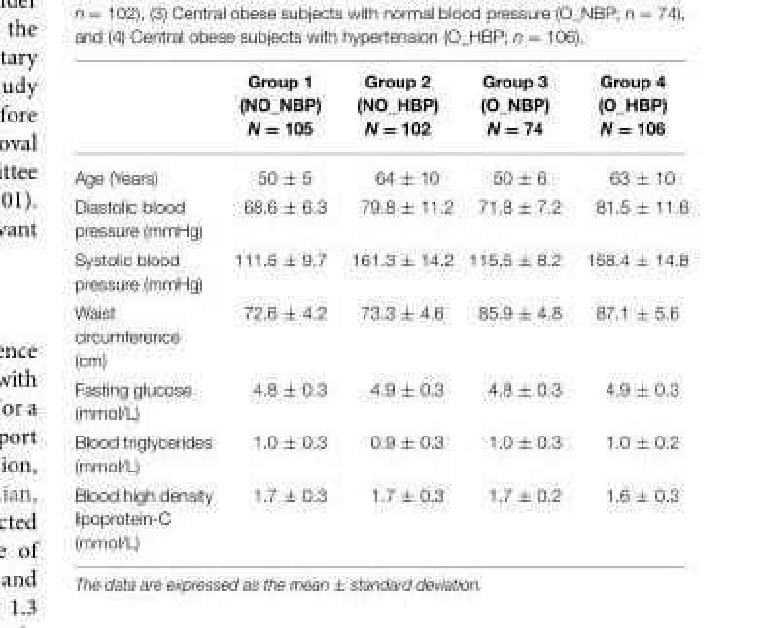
<table><thead><tr><td></td><td>Group 1 (NO_NBP) N = 105</td><td>Group 2 (NO_HBP) N = 102</td><td>Group 3 (O_NBP) N = 74</td><td>Group 4 (O_HBP) N = 106</td></tr></thead><tbody><tr><td>Age (Years)</td><td>50 ± 5</td><td>64 ± 10</td><td>50 ± 6</td><td>63 ± 10</td></tr><tr><td>Diastolic blood pressure (mmHg)</td><td>68.6 ± 6.3</td><td>79.8 ± 11.2</td><td>71.8 ± 7.2</td><td>81.5 ± 11.6</td></tr><tr><td>Systolic blood pressure (mmHg)</td><td>111.5 ± 9.7</td><td>161.3 ± 14.2</td><td>115.5 ± 8.2</td><td>158.4 ± 14.8</td></tr><tr><td>Waist circumference (cm)</td><td>72.6 ± 4.2</td><td>73.3 ± 4.6</td><td>85.9 ± 4.8</td><td>87.1 ± 5.6</td></tr><tr><td>Fasting glucose (mmol/L)</td><td>4.8 ± 0.3</td><td>4.9 ± 0.3</td><td>4.8 ± 0.3</td><td>4.9 ± 0.3</td></tr><tr><td>Blood triglycerides (mmol/L)</td><td>1.0 ± 0.3</td><td>0.9 ± 0.3</td><td>1.0 ± 0.3</td><td>1.0 ± 0.2</td></tr><tr><td>Blood high density lipoprotein-C (mmol/L)</td><td>1.7 ± 0.3</td><td>1.7 ± 0.3</td><td>1.7 ± 0.2</td><td>1.6 ± 0.3</td></tr></tbody></table>